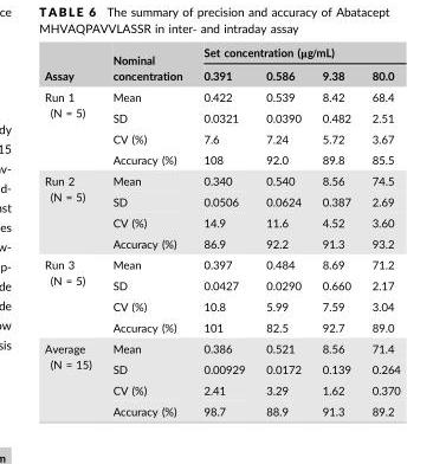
<table><thead><tr><td rowspan="2">Assay</td><td rowspan="2">Nominal concentration</td><td colspan="4">Set concentration (μg/mL)</td></tr><tr><td>0.391</td><td>0.586</td><td>9.38</td><td>80.0</td></tr></thead><tbody><tr><td rowspan="4">Run 1 (N = 5)</td><td>Mean</td><td>0.422</td><td>0.539</td><td>8.42</td><td>68.4</td></tr><tr><td>SD</td><td>0.0321</td><td>0.0390</td><td>0.482</td><td>2.51</td></tr><tr><td>CV (%)</td><td>7.6</td><td>7.24</td><td>5.72</td><td>3.67</td></tr><tr><td>Accuracy (%)</td><td>108</td><td>92.0</td><td>89.8</td><td>85.5</td></tr><tr><td rowspan="4">Run 2 (N = 5)</td><td>Mean</td><td>0.340</td><td>0.540</td><td>8.56</td><td>74.5</td></tr><tr><td>SD</td><td>0.0506</td><td>0.0624</td><td>0.387</td><td>2.69</td></tr><tr><td>CV (%)</td><td>14.9</td><td>11.6</td><td>4.52</td><td>3.60</td></tr><tr><td>Accuracy (%)</td><td>86.9</td><td>92.2</td><td>91.3</td><td>93.2</td></tr><tr><td rowspan="4">Run 3 (N = 5)</td><td>Mean</td><td>0.397</td><td>0.484</td><td>8.69</td><td>71.2</td></tr><tr><td>SD</td><td>0.0427</td><td>0.0290</td><td>0.660</td><td>2.17</td></tr><tr><td>CV (%)</td><td>10.8</td><td>5.99</td><td>7.59</td><td>3.04</td></tr><tr><td>Accuracy (%)</td><td>101</td><td>82.5</td><td>92.7</td><td>89.0</td></tr><tr><td rowspan="4">Average (N = 15)</td><td>Mean</td><td>0.386</td><td>0.521</td><td>8.56</td><td>71.4</td></tr><tr><td>SD</td><td>0.00929</td><td>0.0172</td><td>0.139</td><td>0.264</td></tr><tr><td>CV (%)</td><td>2.41</td><td>3.29</td><td>1.62</td><td>0.370</td></tr><tr><td>Accuracy (%)</td><td>98.7</td><td>88.9</td><td>91.3</td><td>89.2</td></tr></tbody></table>